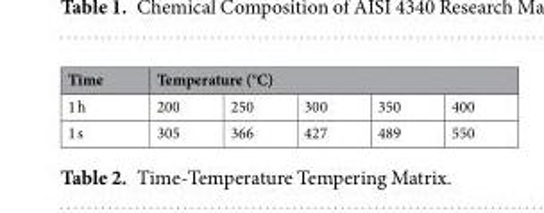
<table><thead><tr><td rowspan="2">Time 1 h</td><td colspan="5">Temperature (°C)</td></tr><tr><td>200</td><td>250</td><td>300</td><td>350</td><td>400</td></tr></thead><tbody><tr><td>1 s</td><td>305</td><td>366</td><td>427</td><td>489</td><td>550</td></tr></tbody></table>